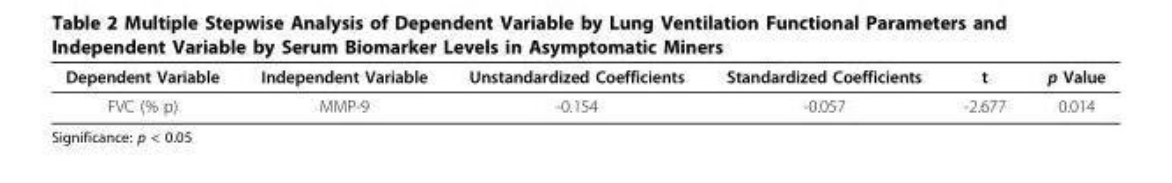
<table><thead><tr><td>Dependent Variable</td><td>Independent Variable</td><td>Unstandardized Coefficients</td><td>Standardized Coefficients</td><td>t</td><td>p Value</td></tr></thead><tbody><tr><td>FVC (% p)</td><td>MMP-9</td><td>-0.154</td><td>-0.057</td><td>-2.677</td><td>0.014</td></tr></tbody></table>